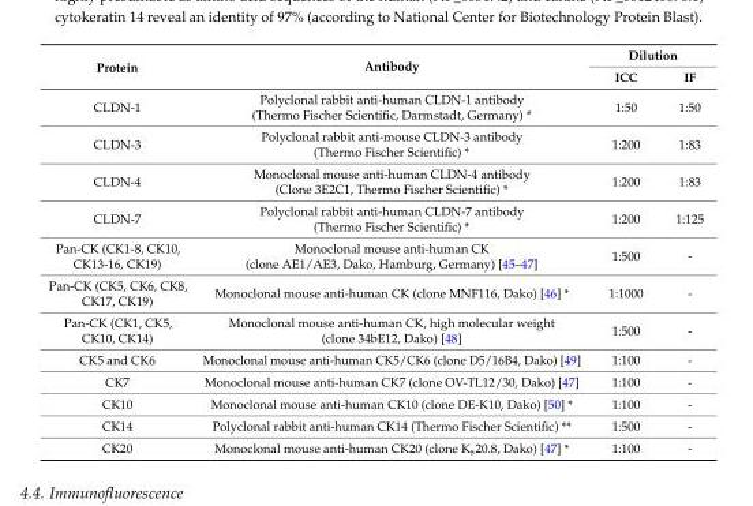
<table><thead><tr><td rowspan="2">Protein</td><td rowspan="2">Antibody</td><td colspan="2">Dilution</td></tr><tr><td>ICC</td><td>IF</td></tr></thead><tbody><tr><td>CLDN-1</td><td>Polyclonal rabbit anti-human CLDN-1 antibody (Thermo Fischer Scientific, Darmstadt, Germany) *</td><td>1:50</td><td>1:50</td></tr><tr><td>CLDN-3</td><td>Polyclonal rabbit anti-mouse CLDN-3 antibody (Thermo Fischer Scientific) *</td><td>1:200</td><td>1:83</td></tr><tr><td>CLDN-4</td><td>Monoclonal mouse anti-human CLDN-4 antibody (Clone 3E2C1, Thermo Fischer Scientific) *</td><td>1:200</td><td>1:83</td></tr><tr><td>CLDN-7</td><td>Polyclonal rabbit anti-human CLDN-7 antibody (Thermo Fischer Scientific) *</td><td>1:200</td><td>1:125</td></tr><tr><td>Pan-CK (CK1-8, CK10, CK13-16, CK19)</td><td>Monoclonal mouse anti-human CK (clone AE1/AE3, Dako, Hamburg, Germany) [45–47]</td><td>1:500</td><td>-</td></tr><tr><td>Pan-CK (CK5, CK6, CK8, CK17, CK19)</td><td>Monoclonal mouse anti-human CK (clone MNF116, Dako) [46] *</td><td>1:1000</td><td>-</td></tr><tr><td>Pan-CK (CK1, CK5, CK10, CK14)</td><td>Monoclonal mouse anti-human CK, high molecular weight (clone 34bE12, Dako) [48]</td><td>1:500</td><td>-</td></tr><tr><td>CK5 and CK6</td><td>Monoclonal mouse anti-human CK5/CK6 (clone D5/16B4, Dako) [49]</td><td>1:100</td><td>-</td></tr><tr><td>CK7</td><td>Monoclonal mouse anti-human CK7 (clone OV-TL12/30, Dako) [47]</td><td>1:100</td><td>-</td></tr><tr><td>CK10</td><td>Monoclonal mouse anti-human CK10 (clone DE-K10, Dako) [50] *</td><td>1:100</td><td>-</td></tr><tr><td>CK14</td><td>Polyclonal rabbit anti-human CK14 (Thermo Fischer Scientific) **</td><td>1:500</td><td>-</td></tr><tr><td>CK20</td><td>Monoclonal mouse anti-human CK20 (clone K<sub>s</sub>20.8, Dako) [47] *</td><td>1:100</td><td>-</td></tr></tbody></table>